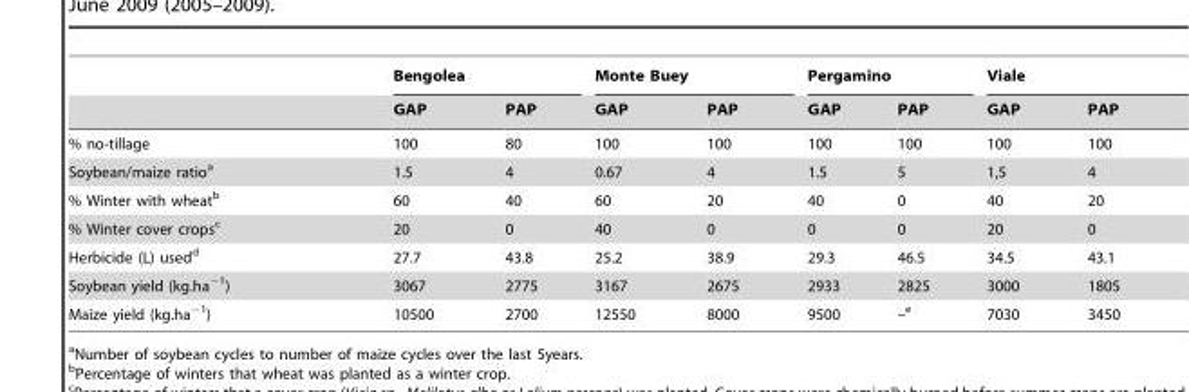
<table><thead><tr><td rowspan="2"></td><td colspan="2">Bengolea</td><td colspan="2">Monte Buey</td><td colspan="2">Pergamino</td><td colspan="2">Viale</td></tr><tr><td>GAP</td><td>PAP</td><td>GAP</td><td>PAP</td><td>GAP</td><td>PAP</td><td>GAP</td><td>PAP</td></tr></thead><tbody><tr><td>% no-tillage</td><td>100</td><td>80</td><td>100</td><td>100</td><td>100</td><td>100</td><td>100</td><td>100</td></tr><tr><td>Soybean/maize ratio<sup>a</sup></td><td>1.5</td><td>4</td><td>0.67</td><td>4</td><td>1.5</td><td>5</td><td>1,5</td><td>4</td></tr><tr><td>% Winter with wheat<sup>b</sup></td><td>60</td><td>40</td><td>60</td><td>20</td><td>40</td><td>0</td><td>40</td><td>20</td></tr><tr><td>% Winter cover crops<sup>c</sup></td><td>20</td><td>0</td><td>40</td><td>0</td><td>0</td><td>0</td><td>20</td><td>0</td></tr><tr><td>Herbicide (L) used<sup>d</sup></td><td>27.7</td><td>43.8</td><td>25.2</td><td>38.9</td><td>29.3</td><td>46.5</td><td>34.5</td><td>43.1</td></tr><tr><td>Soybean yield (kg.ha<sup>−1</sup>)</td><td>3067</td><td>2775</td><td>3167</td><td>2675</td><td>2933</td><td>2825</td><td>3000</td><td>1805</td></tr><tr><td>Maize yield (kg.ha<sup>−1</sup>)</td><td>10500</td><td>2700</td><td>12550</td><td>8000</td><td>9500</td><td>–e</td><td>7030</td><td>3450</td></tr></tbody></table>